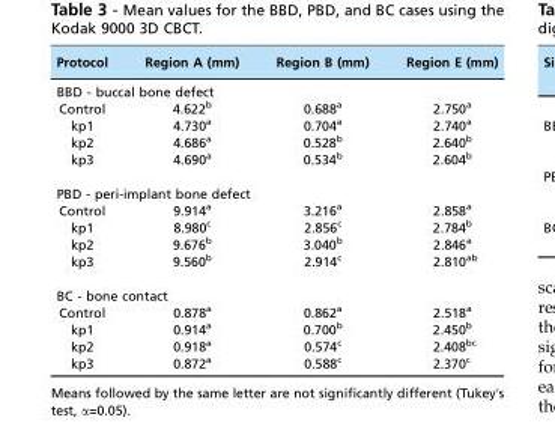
<table><thead><tr><td>Protocol</td><td>Region A (mm)</td><td>Region B (mm)</td><td>Region E (mm)</td></tr></thead><tbody><tr><td colspan="4">BBD - buccal bone defect</td></tr><tr><td>Control</td><td>4.622<sup>b</sup></td><td>0.688<sup>a</sup></td><td>2.750<sup>a</sup></td></tr><tr><td>kp1</td><td>4.730<sup>a</sup></td><td>0.704<sup>a</sup></td><td>2.740<sup>a</sup></td></tr><tr><td>kp2</td><td>4.686<sup>a</sup></td><td>0.528<sup>b</sup></td><td>2.640<sup>b</sup></td></tr><tr><td>kp3</td><td>4.690<sup>a</sup></td><td>0.534<sup>b</sup></td><td>2.604<sup>b</sup></td></tr><tr><td colspan="4">PBD - peri-implant bone defect</td></tr><tr><td>Control</td><td>9.914<sup>a</sup></td><td>3.216<sup>a</sup></td><td>2.858<sup>a</sup></td></tr><tr><td>kp1</td><td>8.980<sup>c</sup></td><td>2.856<sup>c</sup></td><td>2.784<sup>b</sup></td></tr><tr><td>kp2</td><td>9.676<sup>b</sup></td><td>3.040<sup>b</sup></td><td>2.846<sup>a</sup></td></tr><tr><td>kp3</td><td>9.560<sup>b</sup></td><td>2.914<sup>c</sup></td><td>2.810<sup>ab</sup></td></tr><tr><td colspan="4">BC - bone contact</td></tr><tr><td>Control</td><td>0.878<sup>a</sup></td><td>0.862<sup>a</sup></td><td>2.518<sup>a</sup></td></tr><tr><td>kp1</td><td>0.914<sup>a</sup></td><td>0.700<sup>b</sup></td><td>2.450<sup>b</sup></td></tr><tr><td>kp2</td><td>0.918<sup>a</sup></td><td>0.574<sup>c</sup></td><td>2.408<sup>bc</sup></td></tr><tr><td>kp3</td><td>0.872<sup>a</sup></td><td>0.588<sup>c</sup></td><td>2.370<sup>c</sup></td></tr></tbody></table>